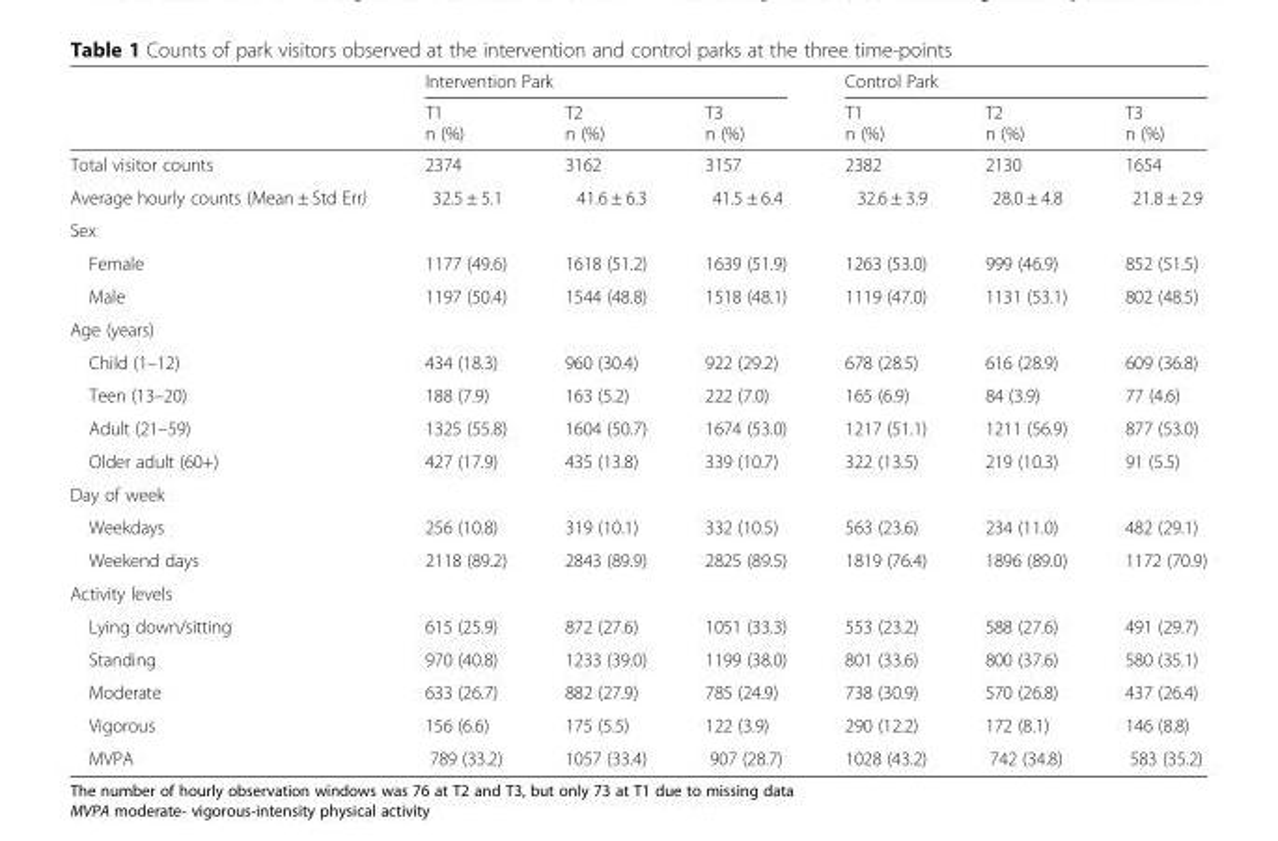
<table><thead><tr><td rowspan="2"></td><td colspan="3">Intervention Park</td><td colspan="3">Control Park</td></tr><tr><td>T1 n (%)</td><td>T2 n (%)</td><td>T3 n (%)</td><td>T1 n (%)</td><td>T2 n (%)</td><td>T3 n (%)</td></tr></thead><tbody><tr><td>Total visitor counts</td><td>2374</td><td>3162</td><td>3157</td><td>2382</td><td>2130</td><td>1654</td></tr><tr><td>Average hourly counts (Mean ± Std Err)</td><td>32.5 ± 5.1</td><td>41.6 ± 6.3</td><td>41.5 ± 6.4</td><td>32.6 ± 3.9</td><td>28.0 ± 4.8</td><td>21.8 ± 2.9</td></tr><tr><td colspan="7">Sex</td></tr><tr><td>Female</td><td>1177 (49.6)</td><td>1618 (51.2)</td><td>1639 (51.9)</td><td>1263 (53.0)</td><td>999 (46.9)</td><td>852 (51.5)</td></tr><tr><td>Male</td><td>1197 (50.4)</td><td>1544 (48.8)</td><td>1518 (48.1)</td><td>1119 (47.0)</td><td>1131 (53.1)</td><td>802 (48.5)</td></tr><tr><td colspan="7">Age (years)</td></tr><tr><td>Child (1–12)</td><td>434 (18.3)</td><td>960 (30.4)</td><td>922 (29.2)</td><td>678 (28.5)</td><td>616 (28.9)</td><td>609 (36.8)</td></tr><tr><td>Teen (13–20)</td><td>188 (7.9)</td><td>163 (5.2)</td><td>222 (7.0)</td><td>165 (6.9)</td><td>84 (3.9)</td><td>77 (4.6)</td></tr><tr><td>Adult (21–59)</td><td>1325 (55.8)</td><td>1604 (50.7)</td><td>1674 (53.0)</td><td>1217 (51.1)</td><td>1211 (56.9)</td><td>877 (53.0)</td></tr><tr><td>Older adult (60+)</td><td>427 (17.9)</td><td>435 (13.8)</td><td>339 (10.7)</td><td>322 (13.5)</td><td>219 (10.3)</td><td>91 (5.5)</td></tr><tr><td colspan="7">Day of week</td></tr><tr><td>Weekdays</td><td>256 (10.8)</td><td>319 (10.1)</td><td>332 (10.5)</td><td>563 (23.6)</td><td>234 (11.0)</td><td>482 (29.1)</td></tr><tr><td>Weekend days</td><td>2118 (89.2)</td><td>2843 (89.9)</td><td>2825 (89.5)</td><td>1819 (76.4)</td><td>1896 (89.0)</td><td>1172 (70.9)</td></tr><tr><td colspan="7">Activity levels</td></tr><tr><td>Lying down/sitting</td><td>615 (25.9)</td><td>872 (27.6)</td><td>1051 (33.3)</td><td>553 (23.2)</td><td>588 (27.6)</td><td>491 (29.7)</td></tr><tr><td>Standing</td><td>970 (40.8)</td><td>1233 (39.0)</td><td>1199 (38.0)</td><td>801 (33.6)</td><td>800 (37.6)</td><td>580 (35.1)</td></tr><tr><td>Moderate</td><td>633 (26.7)</td><td>882 (27.9)</td><td>785 (24.9)</td><td>738 (30.9)</td><td>570 (26.8)</td><td>437 (26.4)</td></tr><tr><td>Vigorous</td><td>156 (6.6)</td><td>175 (5.5)</td><td>122 (3.9)</td><td>290 (12.2)</td><td>172 (8.1)</td><td>146 (8.8)</td></tr><tr><td>MVPA</td><td>789 (33.2)</td><td>1057 (33.4)</td><td>907 (28.7)</td><td>1028 (43.2)</td><td>742 (34.8)</td><td>583 (35.2)</td></tr></tbody></table>